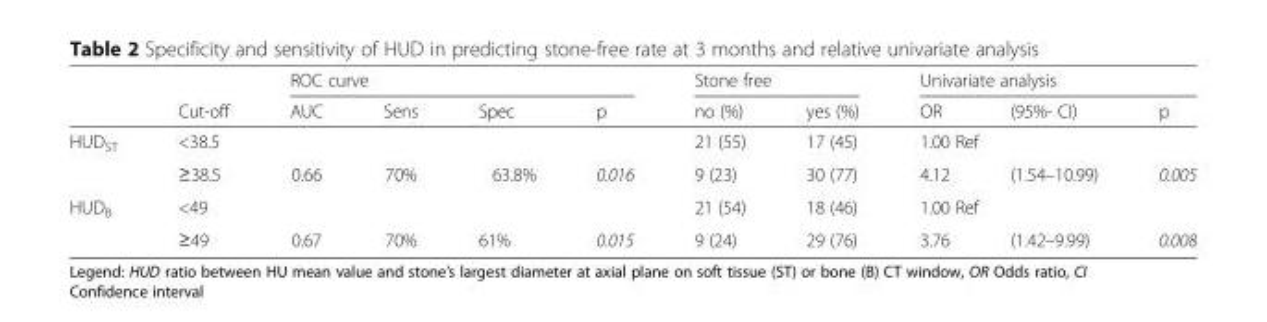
<table><thead><tr><td rowspan="2"></td><td rowspan="2">Cut-off</td><td colspan="4">ROC curve</td><td colspan="2">Stone free</td><td colspan="3">Univariate analysis</td></tr><tr><td>AUC</td><td>Sens</td><td>Spec</td><td>p</td><td>no (%)</td><td>yes (%)</td><td>OR</td><td>(95%- CI)</td><td>p</td></tr></thead><tbody><tr><td rowspan="2">HUD<sub>ST</sub></td><td>&lt;38.5</td><td></td><td></td><td></td><td></td><td>21 (55)</td><td>17 (45)</td><td colspan="2">1.00 Ref</td><td></td></tr><tr><td>≥38.5</td><td>0.66</td><td>70%</td><td>63.8%</td><td>0.016</td><td>9 (23)</td><td>30 (77)</td><td>4.12</td><td>(1.54–10.99)</td><td>0.005</td></tr><tr><td rowspan="2">HUD<sub>B</sub></td><td>&lt;49</td><td></td><td></td><td></td><td></td><td>21 (54)</td><td>18 (46)</td><td colspan="2">1.00 Ref</td><td></td></tr><tr><td>≥49</td><td>0.67</td><td>70%</td><td>61%</td><td>0.015</td><td>9 (24)</td><td>29 (76)</td><td>3.76</td><td>(1.42–9.99)</td><td>0.008</td></tr></tbody></table>